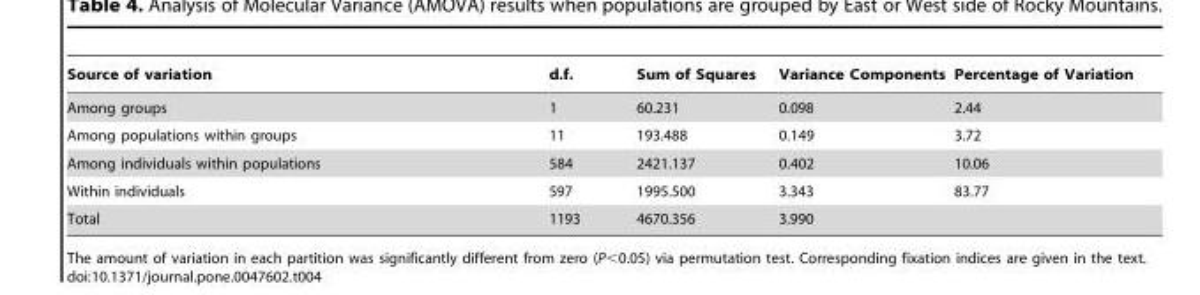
<table><thead><tr><td>Source of variation</td><td>d.f.</td><td>Sum of Squares</td><td>Variance Components</td><td>Percentage of Variation</td></tr></thead><tbody><tr><td>Among groups</td><td>1</td><td>60.231</td><td>0.098</td><td>2.44</td></tr><tr><td>Among populations within groups</td><td>11</td><td>193.488</td><td>0.149</td><td>3.72</td></tr><tr><td>Among individuals within populations</td><td>584</td><td>2421.137</td><td>0.402</td><td>10.06</td></tr><tr><td>Within individuals</td><td>597</td><td>1995.500</td><td>3.343</td><td>83.77</td></tr><tr><td>Total</td><td>1193</td><td>4670.356</td><td>3.990</td><td></td></tr></tbody></table>